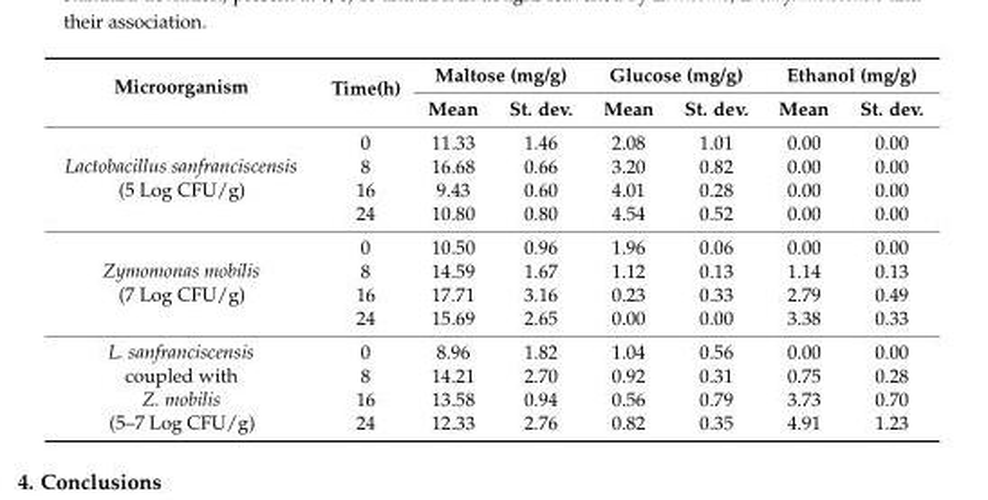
<table><thead><tr><td rowspan="2">Microorganism</td><td rowspan="2">Time(h)</td><td colspan="2">Maltose (mg/g)</td><td colspan="2">Glucose (mg/g)</td><td colspan="2">Ethanol (mg/g)</td></tr><tr><td>Mean</td><td>St. dev.</td><td>Mean</td><td>St. dev.</td><td>Mean</td><td>St. dev.</td></tr></thead><tbody><tr><td rowspan="4">Lactobacillus sanfranciscensis (5 Log CFU/g)</td><td>0</td><td>11.33</td><td>1.46</td><td>2.08</td><td>1.01</td><td>0.00</td><td>0.00</td></tr><tr><td>8</td><td>16.68</td><td>0.66</td><td>3.20</td><td>0.82</td><td>0.00</td><td>0.00</td></tr><tr><td>16</td><td>9.43</td><td>0.60</td><td>4.01</td><td>0.28</td><td>0.00</td><td>0.00</td></tr><tr><td>24</td><td>10.80</td><td>0.80</td><td>4.54</td><td>0.52</td><td>0.00</td><td>0.00</td></tr><tr><td rowspan="4">Zymomonas mobilis (7 Log CFU/g)</td><td>0</td><td>10.50</td><td>0.96</td><td>1.96</td><td>0.06</td><td>0.00</td><td>0.00</td></tr><tr><td>8</td><td>14.59</td><td>1.67</td><td>1.12</td><td>0.13</td><td>1.14</td><td>0.13</td></tr><tr><td>16</td><td>17.71</td><td>3.16</td><td>0.23</td><td>0.33</td><td>2.79</td><td>0.49</td></tr><tr><td>24</td><td>15.69</td><td>2.65</td><td>0.00</td><td>0.00</td><td>3.38</td><td>0.33</td></tr><tr><td rowspan="4">L. sanfranciscensis coupled with Z. mobilis (5–7 Log CFU/g)</td><td>0</td><td>8.96</td><td>1.82</td><td>1.04</td><td>0.56</td><td>0.00</td><td>0.00</td></tr><tr><td>8</td><td>14.21</td><td>2.70</td><td>0.92</td><td>0.31</td><td>0.75</td><td>0.28</td></tr><tr><td>16</td><td>13.58</td><td>0.94</td><td>0.56</td><td>0.79</td><td>3.73</td><td>0.70</td></tr><tr><td>24</td><td>12.33</td><td>2.76</td><td>0.82</td><td>0.35</td><td>4.91</td><td>1.23</td></tr></tbody></table>